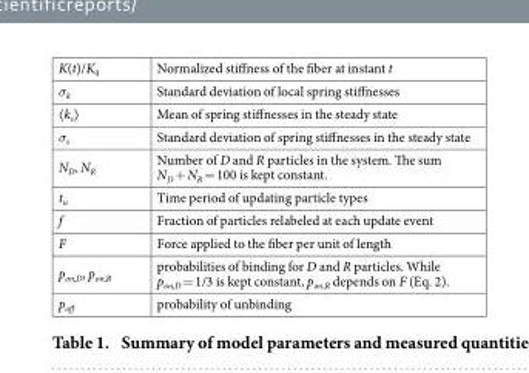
<table><tbody><tr><td>K(t)/K<sub>0</sub></td><td>Normalized stiffness of the fiber at instant t</td></tr><tr><td>σ<sub>k</sub></td><td>Standard deviation of local spring stiffnesses</td></tr><tr><td>〈 k<sub>s</sub>〉</td><td>Mean of spring stiffnesses in the steady state</td></tr><tr><td>σ<sub>s</sub></td><td>Standard deviation of spring stiffnesses in the steady state</td></tr><tr><td>N<sub>D</sub>, N<sub>R</sub></td><td>Number of D and R particles in the system. The sum N<sub>D</sub> + N<sub>R</sub> = 100 is kept constant.</td></tr><tr><td>t<sub>u</sub></td><td>Time period of updating particle types</td></tr><tr><td>f</td><td>Fraction of particles relabeled at each update event</td></tr><tr><td>F</td><td>Force applied to the fiber per unit of length</td></tr><tr><td>p<sub>on,D</sub>, p<sub>on,R</sub></td><td>probabilities of binding for D and R particles. While p<sub>on,D</sub> = 1/3 is kept constant, p<sub>on,R</sub> depends on F (Eq. 2).</td></tr><tr><td>p<sub>off</sub></td><td>probability of unbinding</td></tr></tbody></table>